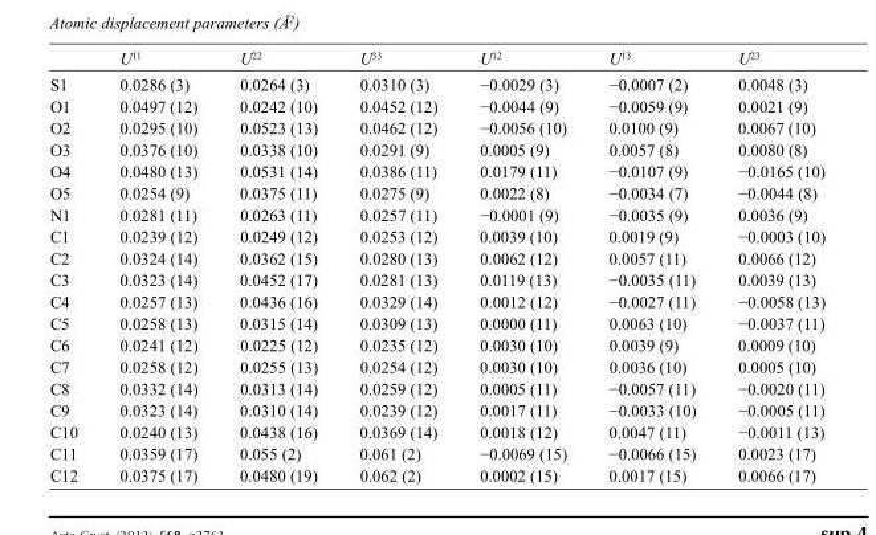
<table><thead><tr><td></td><td>U<sup>11</sup></td><td>U<sup>22</sup></td><td>U<sup>33</sup></td><td>U<sup>12</sup></td><td>U<sup>13</sup></td><td>U<sup>23</sup></td></tr></thead><tbody><tr><td>S1</td><td>0.0286 (3)</td><td>0.0264 (3)</td><td>0.0310 (3)</td><td>−0.0029 (3)</td><td>−0.0007 (2)</td><td>0.0048 (3)</td></tr><tr><td>O1</td><td>0.0497 (12)</td><td>0.0242 (10)</td><td>0.0452 (12)</td><td>−0.0044 (9)</td><td>−0.0059 (9)</td><td>0.0021 (9)</td></tr><tr><td>O2</td><td>0.0295 (10)</td><td>0.0523 (13)</td><td>0.0462 (12)</td><td>−0.0056 (10)</td><td>0.0100 (9)</td><td>0.0067 (10)</td></tr><tr><td>O3</td><td>0.0376 (10)</td><td>0.0338 (10)</td><td>0.0291 (9)</td><td>0.0005 (9)</td><td>0.0057 (8)</td><td>0.0080 (8)</td></tr><tr><td>O4</td><td>0.0480 (13)</td><td>0.0531 (14)</td><td>0.0386 (11)</td><td>0.0179 (11)</td><td>−0.0107 (9)</td><td>−0.0165 (10)</td></tr><tr><td>O5</td><td>0.0254 (9)</td><td>0.0375 (11)</td><td>0.0275 (9)</td><td>0.0022 (8)</td><td>−0.0034 (7)</td><td>−0.0044 (8)</td></tr><tr><td>N1</td><td>0.0281 (11)</td><td>0.0263 (11)</td><td>0.0257 (11)</td><td>−0.0001 (9)</td><td>−0.0035 (9)</td><td>0.0036 (9)</td></tr><tr><td>C1</td><td>0.0239 (12)</td><td>0.0249 (12)</td><td>0.0253 (12)</td><td>0.0039 (10)</td><td>0.0019 (9)</td><td>−0.0003 (10)</td></tr><tr><td>C2</td><td>0.0324 (14)</td><td>0.0362 (15)</td><td>0.0280 (13)</td><td>0.0062 (12)</td><td>0.0057 (11)</td><td>0.0066 (12)</td></tr><tr><td>C3</td><td>0.0323 (14)</td><td>0.0452 (17)</td><td>0.0281 (13)</td><td>0.0119 (13)</td><td>−0.0035 (11)</td><td>0.0039 (13)</td></tr><tr><td>C4</td><td>0.0257 (13)</td><td>0.0436 (16)</td><td>0.0329 (14)</td><td>0.0012 (12)</td><td>−0.0027 (11)</td><td>−0.0058 (13)</td></tr><tr><td>C5</td><td>0.0258 (13)</td><td>0.0315 (14)</td><td>0.0309 (13)</td><td>0.0000 (11)</td><td>0.0063 (10)</td><td>−0.0037 (11)</td></tr><tr><td>C6</td><td>0.0241 (12)</td><td>0.0225 (12)</td><td>0.0235 (12)</td><td>0.0030 (10)</td><td>0.0039 (9)</td><td>0.0009 (10)</td></tr><tr><td>C7</td><td>0.0258 (12)</td><td>0.0255 (13)</td><td>0.0254 (12)</td><td>0.0030 (10)</td><td>0.0036 (10)</td><td>0.0005 (10)</td></tr><tr><td>C8</td><td>0.0332 (14)</td><td>0.0313 (14)</td><td>0.0259 (12)</td><td>0.0005 (11)</td><td>−0.0057 (11)</td><td>−0.0020 (11)</td></tr><tr><td>C9</td><td>0.0323 (14)</td><td>0.0310 (14)</td><td>0.0239 (12)</td><td>0.0017 (11)</td><td>−0.0033 (10)</td><td>−0.0005 (11)</td></tr><tr><td>C10</td><td>0.0240 (13)</td><td>0.0438 (16)</td><td>0.0369 (14)</td><td>0.0018 (12)</td><td>0.0047 (11)</td><td>−0.0011 (13)</td></tr><tr><td>C11</td><td>0.0359 (17)</td><td>0.055 (2)</td><td>0.061 (2)</td><td>−0.0069 (15)</td><td>−0.0066 (15)</td><td>0.0023 (17)</td></tr><tr><td>C12</td><td>0.0375 (17)</td><td>0.0480 (19)</td><td>0.062 (2)</td><td>0.0002 (15)</td><td>0.0017 (15)</td><td>0.0066 (17)</td></tr></tbody></table>